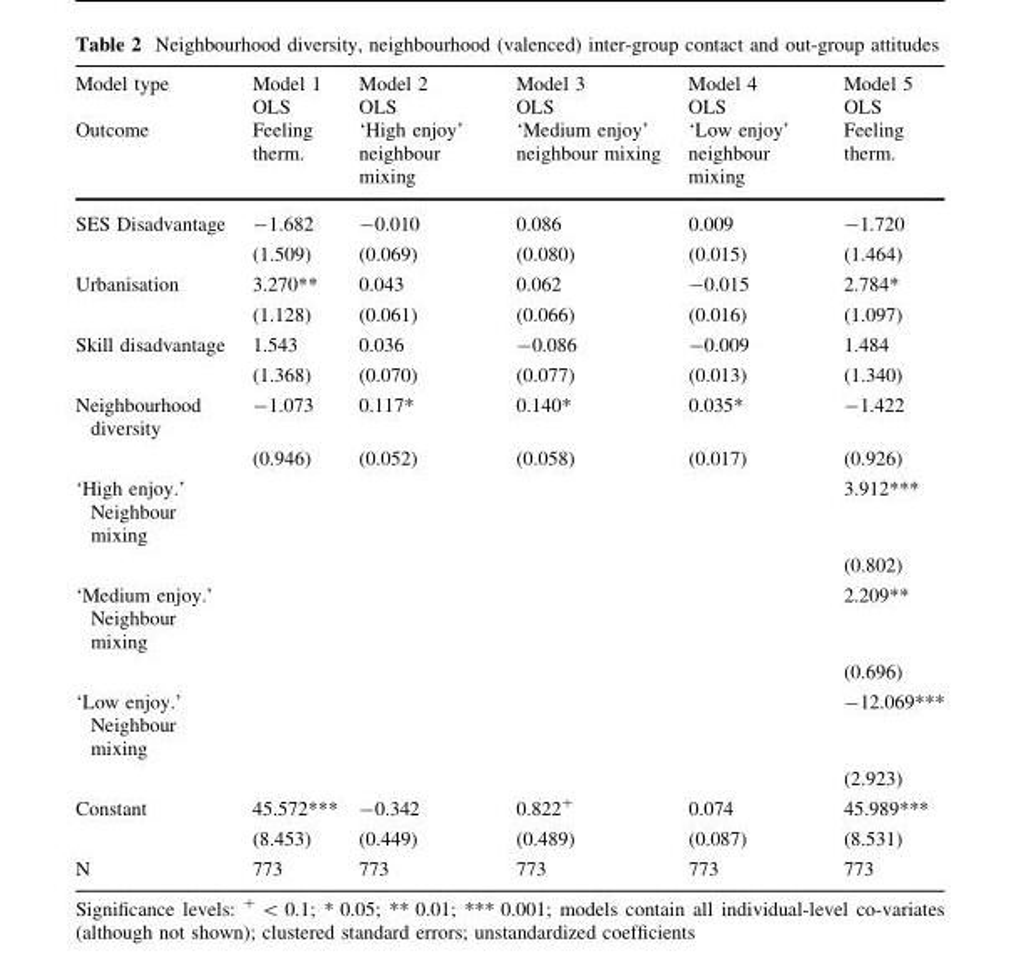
<table><thead><tr><td rowspan="3">Model type Outcome</td><td rowspan="3">Model 1 OLS Feeling therm.</td><td rowspan="3">Model 2 OLS ‘High enjoy’ neighbour mixing</td><td rowspan="3">Model 3 OLS ‘Medium enjoy’ neighbour mixing</td><td rowspan="3">Model 4 OLS ‘Low enjoy’ neighbour mixing</td><td rowspan="3">Model 5 OLS Feeling therm.</td></tr><tr></tr><tr></tr></thead><tbody><tr><td rowspan="2">SES Disadvantage</td><td>-1.682</td><td>-0.010</td><td>0.086</td><td>0.009</td><td>-1.720</td></tr><tr><td>(1.509)</td><td>(0.069)</td><td>(0.080)</td><td>(0.015)</td><td>(1.464)</td></tr><tr><td rowspan="2">Urbanisation</td><td>3.270**</td><td>0.043</td><td>0.062</td><td>-0.015</td><td>2.784*</td></tr><tr><td>(1.128)</td><td>(0.061)</td><td>(0.066)</td><td>(0.016)</td><td>(1.097)</td></tr><tr><td rowspan="2">Skill disadvantage</td><td>1.543</td><td>0.036</td><td>-0.086</td><td>-0.009</td><td>1.484</td></tr><tr><td>(1.368)</td><td>(0.070)</td><td>(0.077)</td><td>(0.013)</td><td>(1.340)</td></tr><tr><td rowspan="2">Neighbourhood diversity</td><td>-1.073</td><td>0.117*</td><td>0.140*</td><td>0.035*</td><td>-1.422</td></tr><tr><td>(0.946)</td><td>(0.052)</td><td>(0.058)</td><td>(0.017)</td><td>(0.926)</td></tr><tr><td rowspan="2">‘High enjoy.’ Neighbour mixing</td><td></td><td></td><td></td><td></td><td>3.912***</td></tr><tr><td></td><td></td><td></td><td></td><td>(0.802)</td></tr><tr><td rowspan="2">‘Medium enjoy.’ Neighbour mixing</td><td></td><td></td><td></td><td></td><td>2.209**</td></tr><tr><td></td><td></td><td></td><td></td><td>(0.696)</td></tr><tr><td rowspan="2">‘Low enjoy.’ Neighbour mixing</td><td></td><td></td><td></td><td></td><td>-12.069***</td></tr><tr><td></td><td></td><td></td><td></td><td>(2.923)</td></tr><tr><td rowspan="2">Constant</td><td>45.572***</td><td>-0.342</td><td>0.822<sup>+</sup></td><td>0.074</td><td>45.989***</td></tr><tr><td>(8.453)</td><td>(0.449)</td><td>(0.489)</td><td>(0.087)</td><td>(8.531)</td></tr><tr><td>N</td><td>773</td><td>773</td><td>773</td><td>773</td><td>773</td></tr></tbody></table>